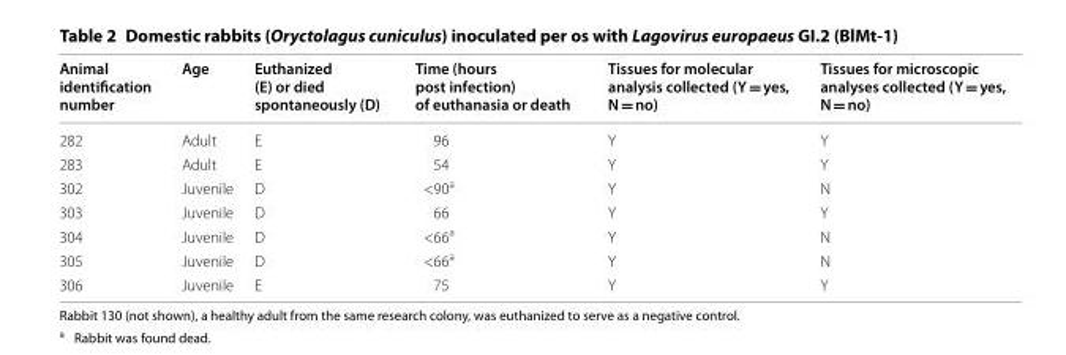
<table><thead><tr><td>Animal identification number</td><td>Age</td><td>Euthanized (E) or died spontaneously (D)</td><td>Time (hours post infection) of euthanasia or death</td><td>Tissues for molecular analysis collected (Y = yes, N = no)</td><td>Tissues for microscopic analyses collected (Y = yes, N = no)</td></tr></thead><tbody><tr><td>282</td><td>Adult</td><td>E</td><td>96</td><td>Y</td><td>Y</td></tr><tr><td>283</td><td>Adult</td><td>E</td><td>54</td><td>Y</td><td>Y</td></tr><tr><td>302</td><td>Juvenile</td><td>D</td><td>&lt;90<sup>a</sup></td><td>Y</td><td>N</td></tr><tr><td>303</td><td>Juvenile</td><td>D</td><td>66</td><td>Y</td><td>Y</td></tr><tr><td>304</td><td>Juvenile</td><td>D</td><td>&lt;66<sup>a</sup></td><td>Y</td><td>N</td></tr><tr><td>305</td><td>Juvenile</td><td>D</td><td>&lt;66<sup>a</sup></td><td>Y</td><td>N</td></tr><tr><td>306</td><td>Juvenile</td><td>E</td><td>75</td><td>Y</td><td>Y</td></tr></tbody></table>